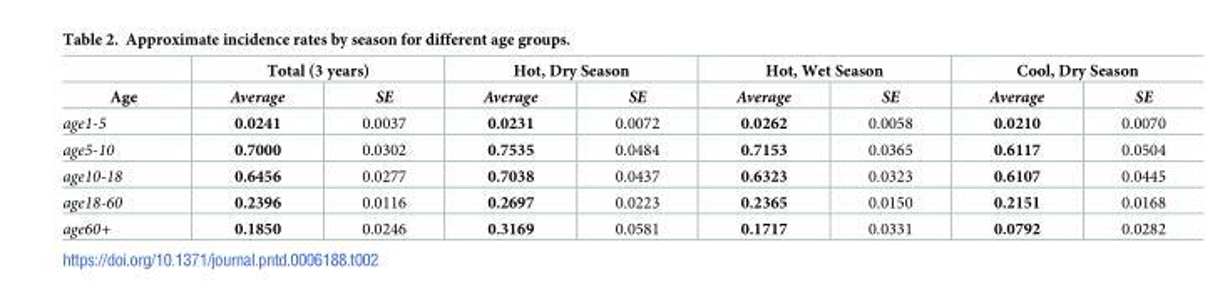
<table><thead><tr><td rowspan="2">Age</td><td colspan="2">Total (3 years)</td><td colspan="2">Hot, Dry Season</td><td colspan="2">Hot, Wet Season</td><td colspan="2">Cool, Dry Season</td></tr><tr><td>Average</td><td>SE</td><td>Average</td><td>SE</td><td>Average</td><td>SE</td><td>Average</td><td>SE</td></tr></thead><tbody><tr><td>age1-5</td><td>0.0241</td><td>0.0037</td><td>0.0231</td><td>0.0072</td><td>0.0262</td><td>0.0058</td><td>0.0210</td><td>0.0070</td></tr><tr><td>age5-10</td><td>0.7000</td><td>0.0302</td><td>0.7535</td><td>0.0484</td><td>0.7153</td><td>0.0365</td><td>0.6117</td><td>0.0504</td></tr><tr><td>age10-18</td><td>0.6456</td><td>0.0277</td><td>0.7038</td><td>0.0437</td><td>0.6323</td><td>0.0323</td><td>0.6107</td><td>0.0445</td></tr><tr><td>age18-60</td><td>0.2396</td><td>0.0116</td><td>0.2697</td><td>0.0223</td><td>0.2365</td><td>0.0150</td><td>0.2151</td><td>0.0168</td></tr><tr><td>age60+</td><td>0.1850</td><td>0.0246</td><td>0.3169</td><td>0.0581</td><td>0.1717</td><td>0.0331</td><td>0.0792</td><td>0.0282</td></tr></tbody></table>